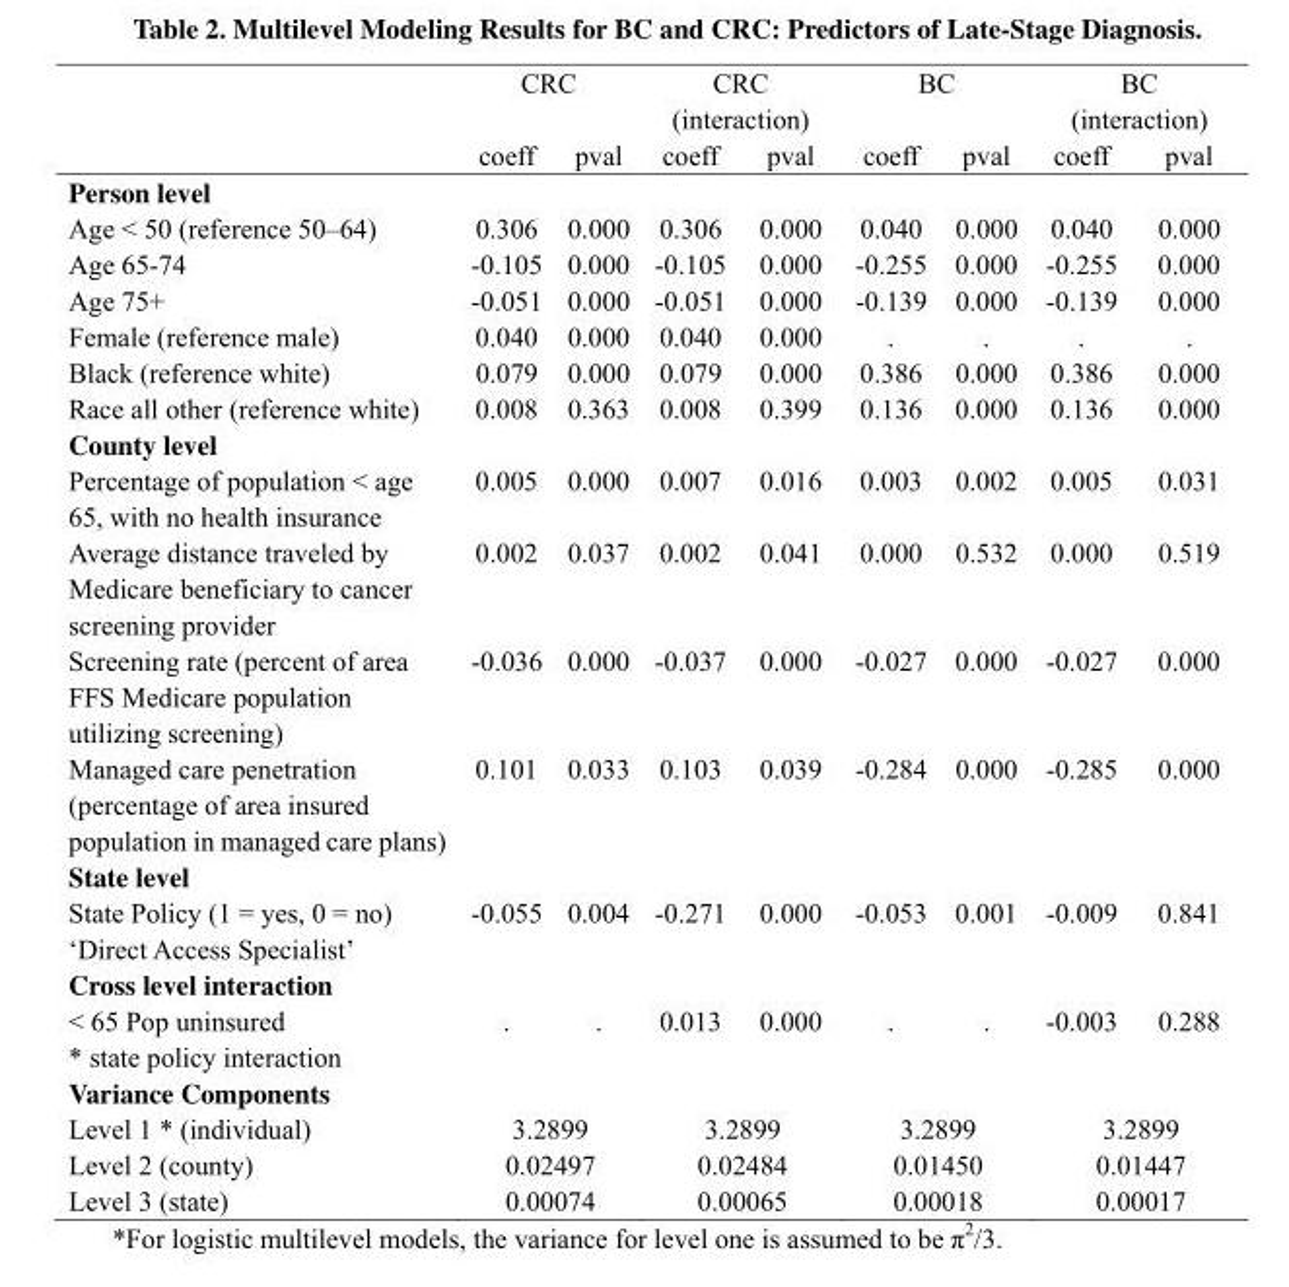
<table><thead><tr><td rowspan="2"></td><td colspan="2">CRC</td><td colspan="2">CRC (interaction)</td><td colspan="2">BC</td><td colspan="2">BC (interaction)</td></tr><tr><td>coeff</td><td>pval</td><td>coeff</td><td>pval</td><td>coeff</td><td>pval</td><td>coeff</td><td>pval</td></tr></thead><tbody><tr><td colspan="9">Person level</td></tr><tr><td>Age &lt; 50 (reference 50–64)</td><td>0.306</td><td>0.000</td><td>0.306</td><td>0.000</td><td>0.040</td><td>0.000</td><td>0.040</td><td>0.000</td></tr><tr><td>Age 65-74</td><td>-0.105</td><td>0.000</td><td>-0.105</td><td>0.000</td><td>-0.255</td><td>0.000</td><td>-0.255</td><td>0.000</td></tr><tr><td>Age 75+</td><td>-0.051</td><td>0.000</td><td>-0.051</td><td>0.000</td><td>-0.139</td><td>0.000</td><td>-0.139</td><td>0.000</td></tr><tr><td>Female (reference male)</td><td>0.040</td><td>0.000</td><td>0.040</td><td>0.000</td><td>.</td><td>.</td><td>.</td><td>.</td></tr><tr><td>Black (reference white)</td><td>0.079</td><td>0.000</td><td>0.079</td><td>0.000</td><td>0.386</td><td>0.000</td><td>0.386</td><td>0.000</td></tr><tr><td>Race all other (reference white)</td><td>0.008</td><td>0.363</td><td>0.008</td><td>0.399</td><td>0.136</td><td>0.000</td><td>0.136</td><td>0.000</td></tr><tr><td colspan="9">County level</td></tr><tr><td>Percentage of population &lt; age 65, with no health insurance</td><td>0.005</td><td>0.000</td><td>0.007</td><td>0.016</td><td>0.003</td><td>0.002</td><td>0.005</td><td>0.031</td></tr><tr><td>Average distance traveled by Medicare beneficiary to cancer screening provider</td><td>0.002</td><td>0.037</td><td>0.002</td><td>0.041</td><td>0.000</td><td>0.532</td><td>0.000</td><td>0.519</td></tr><tr><td>Screening rate (percent of area FFS Medicare population utilizing screening)</td><td>-0.036</td><td>0.000</td><td>-0.037</td><td>0.000</td><td>-0.027</td><td>0.000</td><td>-0.027</td><td>0.000</td></tr><tr><td>Managed care penetration (percentage of area insured population in managed care plans)</td><td>0.101</td><td>0.033</td><td>0.103</td><td>0.039</td><td>-0.284</td><td>0.000</td><td>-0.285</td><td>0.000</td></tr><tr><td colspan="9">State level</td></tr><tr><td>State Policy (1 = yes, 0 = no) ‘Direct Access Specialist’</td><td>-0.055</td><td>0.004</td><td>-0.271</td><td>0.000</td><td>-0.053</td><td>0.001</td><td>-0.009</td><td>0.841</td></tr><tr><td colspan="9">Cross level interaction</td></tr><tr><td>&lt; 65 Pop uninsured * state policy interaction</td><td>.</td><td>.</td><td>0.013</td><td>0.000</td><td>.</td><td>.</td><td>-0.003</td><td>0.288</td></tr><tr><td colspan="9">Variance Components</td></tr><tr><td>Level 1 * (individual)</td><td colspan="2">3.2899</td><td colspan="2">3.2899</td><td colspan="2">3.2899</td><td colspan="2">3.2899</td></tr><tr><td>Level 2 (county)</td><td colspan="2">0.02497</td><td colspan="2">0.02484</td><td colspan="2">0.01450</td><td colspan="2">0.01447</td></tr><tr><td>Level 3 (state)</td><td colspan="2">0.00074</td><td colspan="2">0.00065</td><td colspan="2">0.00018</td><td colspan="2">0.00017</td></tr></tbody></table>